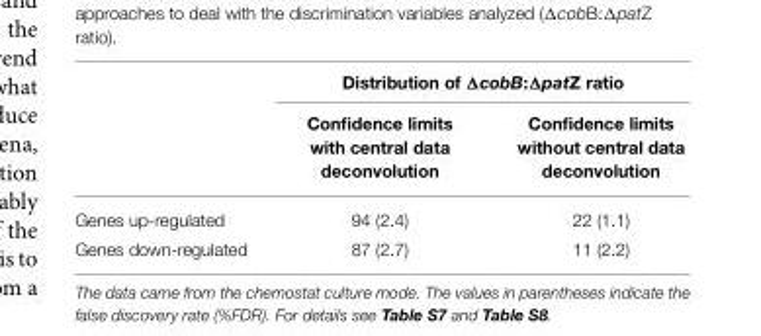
<table><thead><tr><td rowspan="2"></td><td colspan="2">Distribution of ΔcobB:ΔpatZ ratio</td></tr><tr><td>Confidence limits with central data deconvolution</td><td>Confidence limits without central data deconvolution</td></tr></thead><tbody><tr><td>Genes up-regulated</td><td>94 (2.4)</td><td>22 (1.1)</td></tr><tr><td>Genes down-regulated</td><td>87 (2.7)</td><td>11 (2.2)</td></tr></tbody></table>